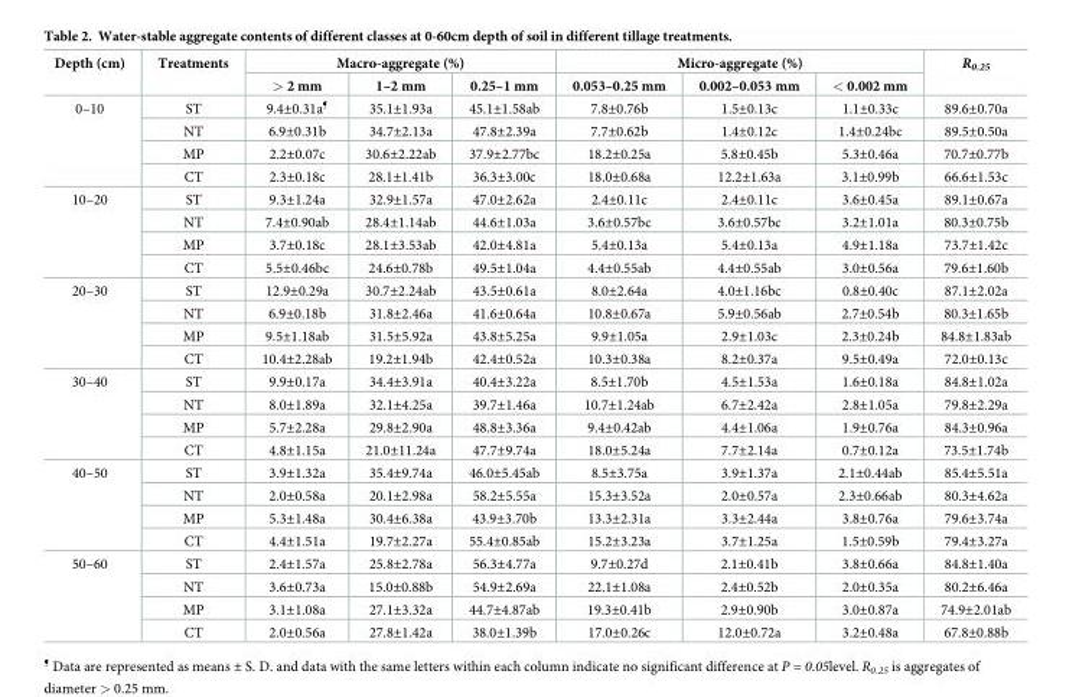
<table><thead><tr><td rowspan="2">Depth (cm)</td><td rowspan="2">Treatments</td><td colspan="3">Macro-aggregate (%)</td><td colspan="3">Micro-aggregate (%)</td><td rowspan="2">R<sub>0.25</sub></td></tr><tr><td>&gt; 2 mm</td><td>1–2 mm</td><td>0.25–1 mm</td><td>0.053–0.25 mm</td><td>0.002–0.053 mm</td><td>&lt; 0.002 mm</td></tr></thead><tbody><tr><td rowspan="4">0–10</td><td>ST</td><td>9.4±0.31a<sup>¶</sup></td><td>35.1±1.93a</td><td>45.1±1.58ab</td><td>7.8±0.76b</td><td>1.5±0.13c</td><td>1.1±0.33c</td><td>89.6±0.70a</td></tr><tr><td>NT</td><td>6.9±0.31b</td><td>34.7±2.13a</td><td>47.8±2.39a</td><td>7.7±0.62b</td><td>1.4±0.12c</td><td>1.4±0.24bc</td><td>89.5±0.50a</td></tr><tr><td>MP</td><td>2.2±0.07c</td><td>30.6±2.22ab</td><td>37.9±2.77bc</td><td>18.2±0.25a</td><td>5.8±0.45b</td><td>5.3±0.46a</td><td>70.7±0.77b</td></tr><tr><td>CT</td><td>2.3±0.18c</td><td>28.1±1.41b</td><td>36.3±3.00c</td><td>18.0±0.68a</td><td>12.2±1.63a</td><td>3.1±0.99b</td><td>66.6±1.53c</td></tr><tr><td rowspan="4">10–20</td><td>ST</td><td>9.3±1.24a</td><td>32.9±1.57a</td><td>47.0±2.62a</td><td>2.4±0.11c</td><td>2.4±0.11c</td><td>3.6±0.45a</td><td>89.1±0.67a</td></tr><tr><td>NT</td><td>7.4±0.90ab</td><td>28.4±1.14ab</td><td>44.6±1.03a</td><td>3.6±0.57bc</td><td>3.6±0.57bc</td><td>3.2±1.01a</td><td>80.3±0.75b</td></tr><tr><td>MP</td><td>3.7±0.18c</td><td>28.1±3.53ab</td><td>42.0±4.81a</td><td>5.4±0.13a</td><td>5.4±0.13a</td><td>4.9±1.18a</td><td>73.7±1.42c</td></tr><tr><td>CT</td><td>5.5±0.46bc</td><td>24.6±0.78b</td><td>49.5±1.04a</td><td>4.4±0.55ab</td><td>4.4±0.55ab</td><td>3.0±0.56a</td><td>79.6±1.60b</td></tr><tr><td rowspan="4">20–30</td><td>ST</td><td>12.9±0.29a</td><td>30.7±2.24ab</td><td>43.5±0.61a</td><td>8.0±2.64a</td><td>4.0±1.16bc</td><td>0.8±0.40c</td><td>87.1±2.02a</td></tr><tr><td>NT</td><td>6.9±0.18b</td><td>31.8±2.46a</td><td>41.6±0.64a</td><td>10.8±0.67a</td><td>5.9±0.56ab</td><td>2.7±0.54b</td><td>80.3±1.65b</td></tr><tr><td>MP</td><td>9.5±1.18ab</td><td>31.5±5.92a</td><td>43.8±5.25a</td><td>9.9±1.05a</td><td>2.9±1.03c</td><td>2.3±0.24b</td><td>84.8±1.83ab</td></tr><tr><td>CT</td><td>10.4±2.28ab</td><td>19.2±1.94b</td><td>42.4±0.52a</td><td>10.3±0.38a</td><td>8.2±0.37a</td><td>9.5±0.49a</td><td>72.0±0.13c</td></tr><tr><td rowspan="4">30–40</td><td>ST</td><td>9.9±0.17a</td><td>34.4±3.91a</td><td>40.4±3.22a</td><td>8.5±1.70b</td><td>4.5±1.53a</td><td>1.6±0.18a</td><td>84.8±1.02a</td></tr><tr><td>NT</td><td>8.0±1.89a</td><td>32.1±4.25a</td><td>39.7±1.46a</td><td>10.7±1.24ab</td><td>6.7±2.42a</td><td>2.8±1.05a</td><td>79.8±2.29a</td></tr><tr><td>MP</td><td>5.7±2.28a</td><td>29.8±2.90a</td><td>48.8±3.36a</td><td>9.4±0.42ab</td><td>4.4±1.06a</td><td>1.9±0.76a</td><td>84.3±0.96a</td></tr><tr><td>CT</td><td>4.8±1.15a</td><td>21.0±11.24a</td><td>47.7±9.74a</td><td>18.0±5.24a</td><td>7.7±2.14a</td><td>0.7±0.12a</td><td>73.5±1.74b</td></tr><tr><td rowspan="4">40–50</td><td>ST</td><td>3.9±1.32a</td><td>35.4±9.74a</td><td>46.0±5.45ab</td><td>8.5±3.75a</td><td>3.9±1.37a</td><td>2.1±0.44ab</td><td>85.4±5.51a</td></tr><tr><td>NT</td><td>2.0±0.58a</td><td>20.1±2.98a</td><td>58.2±5.55a</td><td>15.3±3.52a</td><td>2.0±0.57a</td><td>2.3±0.66ab</td><td>80.3±4.62a</td></tr><tr><td>MP</td><td>5.3±1.48a</td><td>30.4±6.38a</td><td>43.9±3.70b</td><td>13.3±2.31a</td><td>3.3±2.44a</td><td>3.8±0.76a</td><td>79.6±3.74a</td></tr><tr><td>CT</td><td>4.4±1.51a</td><td>19.7±2.27a</td><td>55.4±0.85ab</td><td>15.2±3.23a</td><td>3.7±1.25a</td><td>1.5±0.59b</td><td>79.4±3.27a</td></tr><tr><td rowspan="4">50–60</td><td>ST</td><td>2.4±1.57a</td><td>25.8±2.78a</td><td>56.3±4.77a</td><td>9.7±0.27d</td><td>2.1±0.41b</td><td>3.8±0.66a</td><td>84.8±1.40a</td></tr><tr><td>NT</td><td>3.6±0.73a</td><td>15.0±0.88b</td><td>54.9±2.69a</td><td>22.1±1.08a</td><td>2.4±0.52b</td><td>2.0±0.35a</td><td>80.2±6.46a</td></tr><tr><td>MP</td><td>3.1±1.08a</td><td>27.1±3.32a</td><td>44.7±4.87ab</td><td>19.3±0.41b</td><td>2.9±0.90b</td><td>3.0±0.87a</td><td>74.9±2.01ab</td></tr><tr><td>CT</td><td>2.0±0.56a</td><td>27.8±1.42a</td><td>38.0±1.39b</td><td>17.0±0.26c</td><td>12.0±0.72a</td><td>3.2±0.48a</td><td>67.8±0.88b</td></tr></tbody></table>